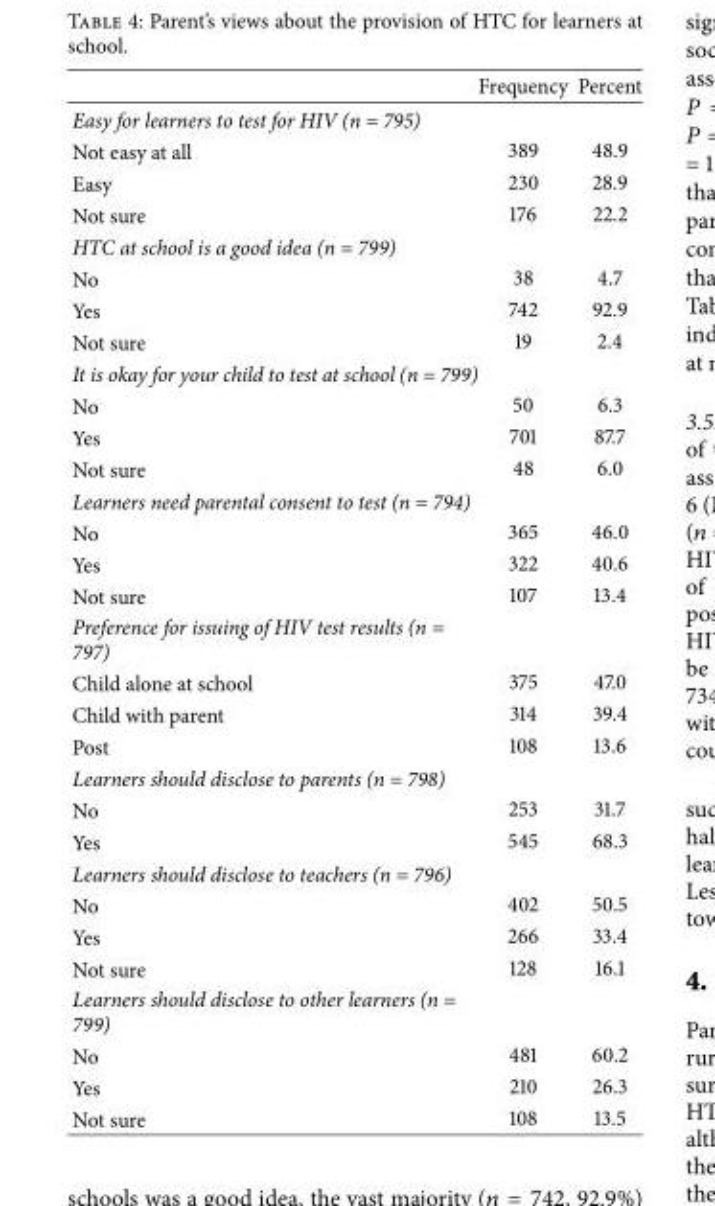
<table><thead><tr><td></td><td>Frequency</td><td>Percent</td></tr></thead><tbody><tr><td colspan="3">Easy for learners to test for HIV (n = 795)</td></tr><tr><td>Not easy at all</td><td>389</td><td>48.9</td></tr><tr><td>Easy</td><td>230</td><td>28.9</td></tr><tr><td>Not sure</td><td>176</td><td>22.2</td></tr><tr><td colspan="3">HTC at school is a good idea (n = 799)</td></tr><tr><td>No</td><td>38</td><td>4.7</td></tr><tr><td>Yes</td><td>742</td><td>92.9</td></tr><tr><td>Not sure</td><td>19</td><td>2.4</td></tr><tr><td colspan="3">It is okay for your child to test at school (n = 799)</td></tr><tr><td>No</td><td>50</td><td>6.3</td></tr><tr><td>Yes</td><td>701</td><td>87.7</td></tr><tr><td>Not sure</td><td>48</td><td>6.0</td></tr><tr><td colspan="3">Learners need parental consent to test (n = 794)</td></tr><tr><td>No</td><td>365</td><td>46.0</td></tr><tr><td>Yes</td><td>322</td><td>40.6</td></tr><tr><td>Not sure</td><td>107</td><td>13.4</td></tr><tr><td colspan="3">Preference for issuing of HIV test results (n = 797)</td></tr><tr><td>Child alone at school</td><td>375</td><td>47.0</td></tr><tr><td>Child with parent</td><td>314</td><td>39.4</td></tr><tr><td>Post</td><td>108</td><td>13.6</td></tr><tr><td colspan="3">Learners should disclose to parents (n = 798)</td></tr><tr><td>No</td><td>253</td><td>31.7</td></tr><tr><td>Yes</td><td>545</td><td>68.3</td></tr><tr><td colspan="3">Learners should disclose to teachers (n = 796)</td></tr><tr><td>No</td><td>402</td><td>50.5</td></tr><tr><td>Yes</td><td>266</td><td>33.4</td></tr><tr><td>Not sure</td><td>128</td><td>16.1</td></tr><tr><td colspan="3">Learners should disclose to other learners (n = 799)</td></tr><tr><td>No</td><td>481</td><td>60.2</td></tr><tr><td>Yes</td><td>210</td><td>26.3</td></tr><tr><td>Not sure</td><td>108</td><td>13.5</td></tr></tbody></table>